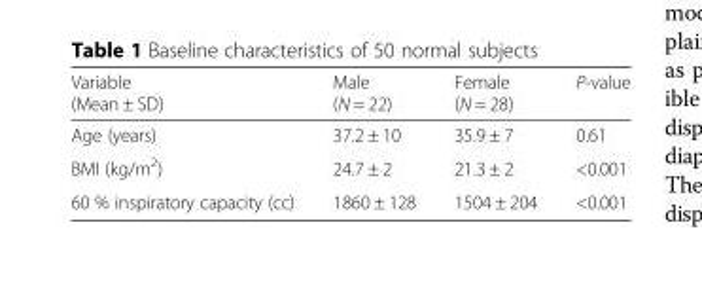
<table><thead><tr><td>Variable (Mean ± SD)</td><td>Male (N = 22)</td><td>Female (N = 28)</td><td>P-value</td></tr></thead><tbody><tr><td>Age (years)</td><td>37.2 ± 10</td><td>35.9 ± 7</td><td>0.61</td></tr><tr><td>BMI (kg/m<sup>2</sup>)</td><td>24.7 ± 2</td><td>21.3 ± 2</td><td>&lt;0.001</td></tr><tr><td>60 % inspiratory capacity (cc)</td><td>1860 ± 128</td><td>1504 ± 204</td><td>&lt;0.001</td></tr></tbody></table>